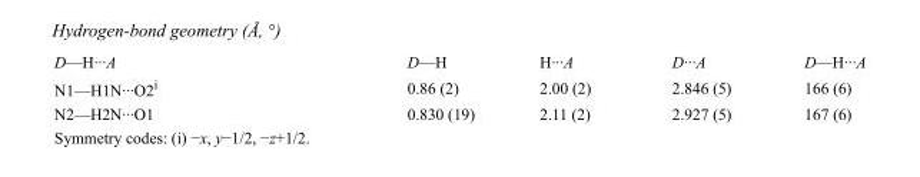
<table><tbody><tr><td>D—H···A</td><td>D—H</td><td>H···A</td><td>D···A</td><td>D—H···A</td></tr><tr><td>N1—H1N···O2<sup>i</sup></td><td>0.86 (2)</td><td>2.00 (2)</td><td>2.846 (5)</td><td>166 (6)</td></tr><tr><td>N2—H2N···O1</td><td>0.830 (19)</td><td>2.11 (2)</td><td>2.927 (5)</td><td>167 (6)</td></tr></tbody></table>